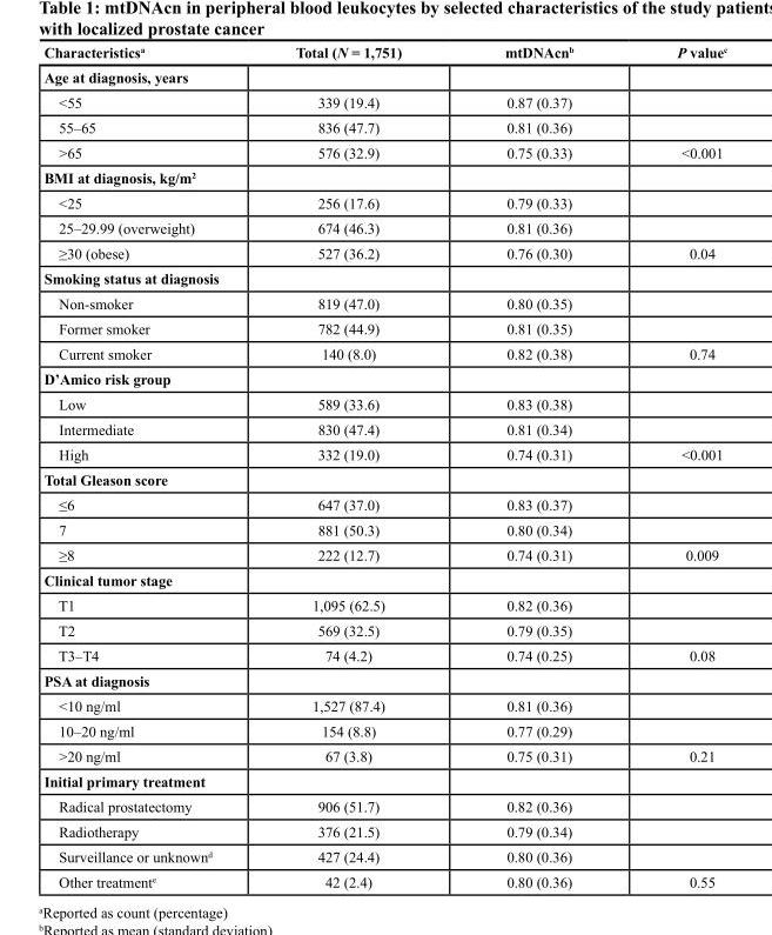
<table><thead><tr><td>Characteristics<sup>a</sup></td><td>Total (N = 1,751)</td><td>mtDNAcn<sup>b</sup></td><td>P value<sup>c</sup></td></tr></thead><tbody><tr><td colspan="4">Age at diagnosis, years</td></tr><tr><td>&lt;55</td><td>339 (19.4)</td><td>0.87 (0.37)</td><td></td></tr><tr><td>55–65</td><td>836 (47.7)</td><td>0.81 (0.36)</td><td></td></tr><tr><td>&gt;65</td><td>576 (32.9)</td><td>0.75 (0.33)</td><td>&lt;0.001</td></tr><tr><td colspan="4">BMI at diagnosis, kg/m<sup>2</sup></td></tr><tr><td>&lt;25</td><td>256 (17.6)</td><td>0.79 (0.33)</td><td></td></tr><tr><td>25–29.99 (overweight)</td><td>674 (46.3)</td><td>0.81 (0.36)</td><td></td></tr><tr><td>≥30 (obese)</td><td>527 (36.2)</td><td>0.76 (0.30)</td><td>0.04</td></tr><tr><td colspan="4">Smoking status at diagnosis</td></tr><tr><td>Non-smoker</td><td>819 (47.0)</td><td>0.80 (0.35)</td><td></td></tr><tr><td>Former smoker</td><td>782 (44.9)</td><td>0.81 (0.35)</td><td></td></tr><tr><td>Current smoker</td><td>140 (8.0)</td><td>0.82 (0.38)</td><td>0.74</td></tr><tr><td colspan="4">D’Amico risk group</td></tr><tr><td>Low</td><td>589 (33.6)</td><td>0.83 (0.38)</td><td></td></tr><tr><td>Intermediate</td><td>830 (47.4)</td><td>0.81 (0.34)</td><td></td></tr><tr><td>High</td><td>332 (19.0)</td><td>0.74 (0.31)</td><td>&lt;0.001</td></tr><tr><td colspan="4">Total Gleason score</td></tr><tr><td>≤6</td><td>647 (37.0)</td><td>0.83 (0.37)</td><td></td></tr><tr><td>7</td><td>881 (50.3)</td><td>0.80 (0.34)</td><td></td></tr><tr><td>≥8</td><td>222 (12.7)</td><td>0.74 (0.31)</td><td>0.009</td></tr><tr><td colspan="4">Clinical tumor stage</td></tr><tr><td>T1</td><td>1,095 (62.5)</td><td>0.82 (0.36)</td><td></td></tr><tr><td>T2</td><td>569 (32.5)</td><td>0.79 (0.35)</td><td></td></tr><tr><td>T3–T4</td><td>74 (4.2)</td><td>0.74 (0.25)</td><td>0.08</td></tr><tr><td colspan="4">PSA at diagnosis</td></tr><tr><td>&lt;10 ng/ml</td><td>1,527 (87.4)</td><td>0.81 (0.36)</td><td></td></tr><tr><td>10–20 ng/ml</td><td>154 (8.8)</td><td>0.77 (0.29)</td><td></td></tr><tr><td>&gt;20 ng/ml</td><td>67 (3.8)</td><td>0.75 (0.31)</td><td>0.21</td></tr><tr><td colspan="4">Initial primary treatment</td></tr><tr><td>Radical prostatectomy</td><td>906 (51.7)</td><td>0.82 (0.36)</td><td></td></tr><tr><td>Radiotherapy</td><td>376 (21.5)</td><td>0.79 (0.34)</td><td></td></tr><tr><td>Surveillance or unknown<sup>d</sup></td><td>427 (24.4)</td><td>0.80 (0.36)</td><td></td></tr><tr><td>Other treatment<sup>e</sup></td><td>42 (2.4)</td><td>0.80 (0.36)</td><td>0.55</td></tr></tbody></table>